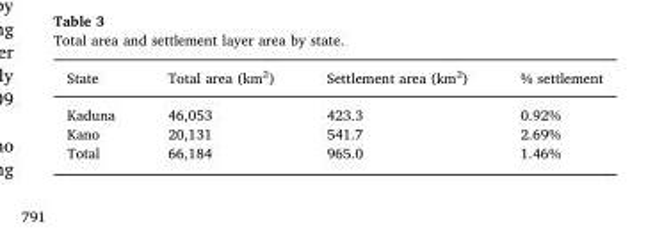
<table><thead><tr><td>State</td><td>Total area (km<sup>2</sup>)</td><td>Settlement area (km<sup>2</sup>)</td><td>% settlement</td></tr></thead><tbody><tr><td>Kaduna</td><td>46,053</td><td>423.3</td><td>0.92%</td></tr><tr><td>Kano</td><td>20,131</td><td>541.7</td><td>2.69%</td></tr><tr><td>Total</td><td>66,184</td><td>965.0</td><td>1.46%</td></tr></tbody></table>